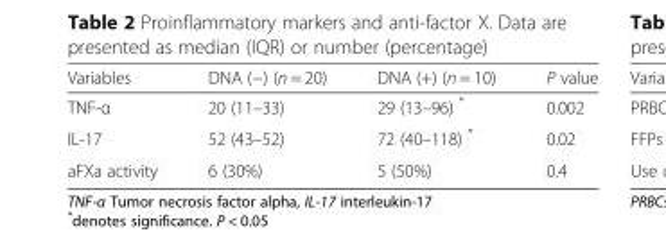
<table><thead><tr><td>Variables</td><td>DNA (−) (n = 20)</td><td>DNA (+) (n = 10)</td><td>P value</td></tr></thead><tbody><tr><td>TNF-α</td><td>20 (11–33)</td><td>29 (13–96) *</td><td>0.002</td></tr><tr><td>IL-17</td><td>52 (43–52)</td><td>72 (40–118) *</td><td>0.02</td></tr><tr><td>aFXa activity</td><td>6 (30%)</td><td>5 (50%)</td><td>0.4</td></tr></tbody></table>